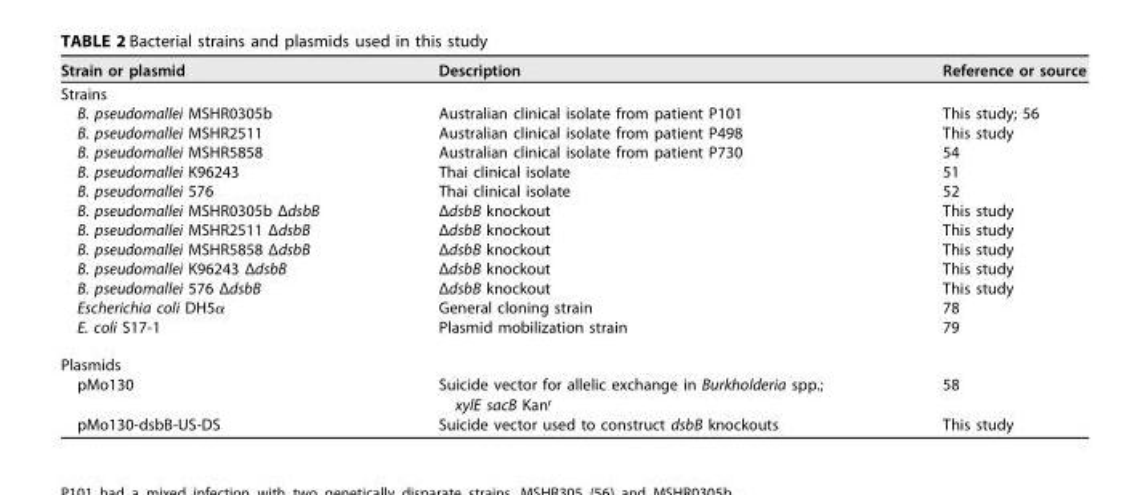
<table><thead><tr><td>Strain or plasmid</td><td>Description</td><td>Reference or source</td></tr></thead><tbody><tr><td colspan="3">Strains</td></tr><tr><td>B. pseudomallei MSHR0305b</td><td>Australian clinical isolate from patient P101</td><td>This study; 56</td></tr><tr><td>B. pseudomallei MSHR2511</td><td>Australian clinical isolate from patient P498</td><td>This study</td></tr><tr><td>B. pseudomallei MSHR5858</td><td>Australian clinical isolate from patient P730</td><td>54</td></tr><tr><td>B. pseudomallei K96243</td><td>Thai clinical isolate</td><td>51</td></tr><tr><td>B. pseudomallei 576</td><td>Thai clinical isolate</td><td>52</td></tr><tr><td>B. pseudomallei MSHR0305b ΔdsbB</td><td>ΔdsbB knockout</td><td>This study</td></tr><tr><td>B. pseudomallei MSHR2511 ΔdsbB</td><td>ΔdsbB knockout</td><td>This study</td></tr><tr><td>B. pseudomallei MSHR5858 ΔdsbB</td><td>ΔdsbB knockout</td><td>This study</td></tr><tr><td>B. pseudomallei K96243 ΔdsbB</td><td>ΔdsbB knockout</td><td>This study</td></tr><tr><td>B. pseudomallei 576 ΔdsbB</td><td>ΔdsbB knockout</td><td>This study</td></tr><tr><td>Escherichia coli DH5α</td><td>General cloning strain</td><td>78</td></tr><tr><td>E. coli S17-1</td><td>Plasmid mobilization strain</td><td>79</td></tr><tr><td colspan="3">Plasmids</td></tr><tr><td>pMo130</td><td>Suicide vector for allelic exchange in Burkholderia spp.; xylE sacB Kan<sup>r</sup></td><td>58</td></tr><tr><td>pMo130-dsbB-US-DS</td><td>Suicide vector used to construct dsbB knockouts</td><td>This study</td></tr></tbody></table>